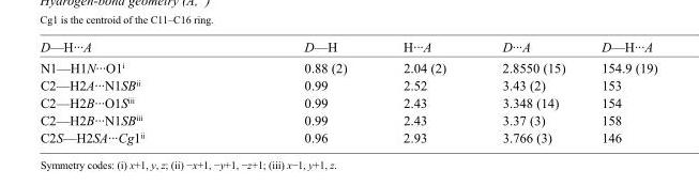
<table><tbody><tr><td>D—H···A</td><td>D—H</td><td>H···A</td><td>D···A</td><td>D—H···A</td></tr><tr><td>N1—H1N···O1<sup>i</sup></td><td>0.88 (2)</td><td>2.04 (2)</td><td>2.8550 (15)</td><td>154.9 (19)</td></tr><tr><td>C2—H2A···N1SB<sup>ii</sup></td><td>0.99</td><td>2.52</td><td>3.43 (2)</td><td>153</td></tr><tr><td>C2—H2B···O1S<sup>iii</sup></td><td>0.99</td><td>2.43</td><td>3.348 (14)</td><td>154</td></tr><tr><td>C2—H2B···N1SB<sup>iii</sup></td><td>0.99</td><td>2.43</td><td>3.37 (3)</td><td>158</td></tr><tr><td>C2S—H2SA···Cg1<sup>ii</sup></td><td>0.96</td><td>2.93</td><td>3.766 (3)</td><td>146</td></tr></tbody></table>